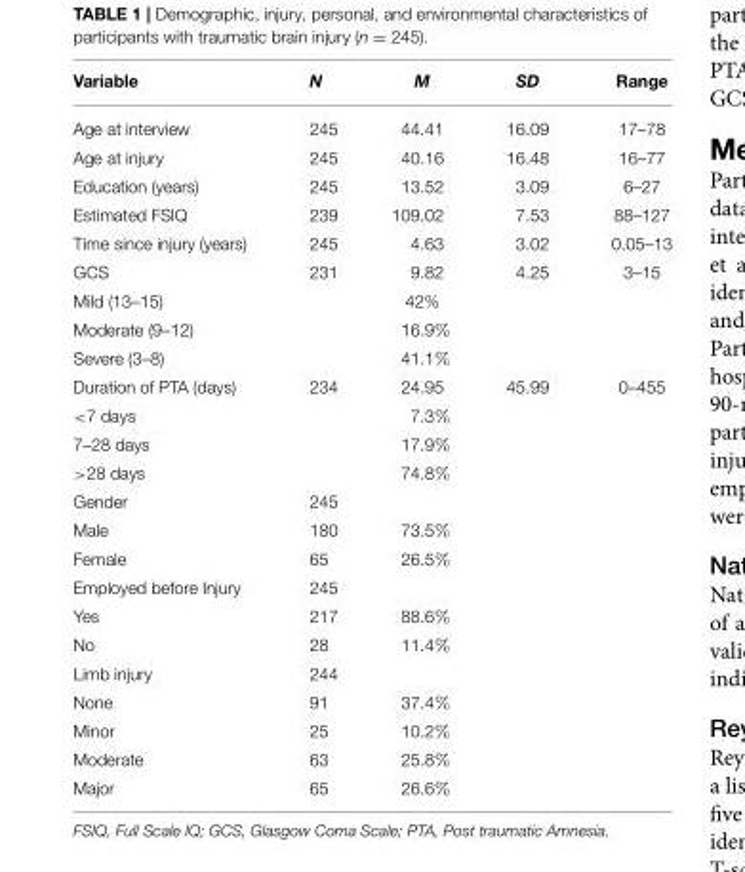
<table><thead><tr><td>Variable</td><td>N</td><td>M</td><td>SD</td><td>Range</td></tr></thead><tbody><tr><td>Age at interview</td><td>245</td><td>44.41</td><td>16.09</td><td>17–78</td></tr><tr><td>Age at injury</td><td>245</td><td>40.16</td><td>16.48</td><td>16–77</td></tr><tr><td>Education (years)</td><td>245</td><td>13.52</td><td>3.09</td><td>6–27</td></tr><tr><td>Estimated FSIQ</td><td>239</td><td>109.02</td><td>7.53</td><td>88–127</td></tr><tr><td>Time since injury (years)</td><td>245</td><td>4.63</td><td>3.02</td><td>0.05–13</td></tr><tr><td>GCS</td><td>231</td><td>9.82</td><td>4.25</td><td>3–15</td></tr><tr><td>Mild (13–15)</td><td></td><td>42%</td><td></td><td></td></tr><tr><td>Moderate (9–12)</td><td></td><td>16.9%</td><td></td><td></td></tr><tr><td>Severe (3–8)</td><td></td><td>41.1%</td><td></td><td></td></tr><tr><td>Duration of PTA (days)</td><td>234</td><td>24.95</td><td>45.99</td><td>0–455</td></tr><tr><td>&lt;7 days</td><td></td><td>7.3%</td><td></td><td></td></tr><tr><td>7–28 days</td><td></td><td>17.9%</td><td></td><td></td></tr><tr><td>&gt;28 days</td><td></td><td>74.8%</td><td></td><td></td></tr><tr><td>Gender</td><td>245</td><td></td><td></td><td></td></tr><tr><td>Male</td><td>180</td><td>73.5%</td><td></td><td></td></tr><tr><td>Female</td><td>65</td><td>26.5%</td><td></td><td></td></tr><tr><td>Employed before Injury</td><td>245</td><td></td><td></td><td></td></tr><tr><td>Yes</td><td>217</td><td>88.6%</td><td></td><td></td></tr><tr><td>No</td><td>28</td><td>11.4%</td><td></td><td></td></tr><tr><td>Limb injury</td><td>244</td><td></td><td></td><td></td></tr><tr><td>None</td><td>91</td><td>37.4%</td><td></td><td></td></tr><tr><td>Minor</td><td>25</td><td>10.2%</td><td></td><td></td></tr><tr><td>Moderate</td><td>63</td><td>25.8%</td><td></td><td></td></tr><tr><td>Major</td><td>65</td><td>26.6%</td><td></td><td></td></tr></tbody></table>